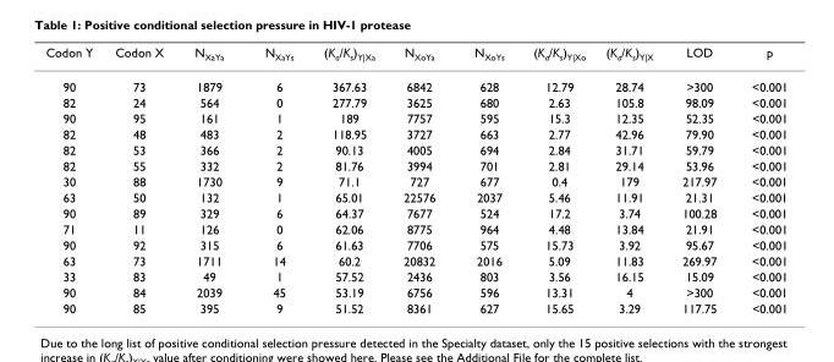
<table><thead><tr><td>Codon Y</td><td>Codon X</td><td>N<sub>XaYa</sub></td><td>N<sub>XaYs</sub></td><td>(K<sub>a</sub>/K<sub>s</sub>)<sub>Y|Xa</sub></td><td>N<sub>XoYa</sub></td><td>N<sub>XoYs</sub></td><td>(K<sub>a</sub>/K<sub>s</sub>)<sub>Y|Xo</sub></td><td>(K<sub>a</sub>/K<sub>s</sub>)<sub>Y|X</sub></td><td>LOD</td><td>p</td></tr></thead><tbody><tr><td>90</td><td>73</td><td>1879</td><td>6</td><td>367.63</td><td>6842</td><td>628</td><td>12.79</td><td>28.74</td><td>&gt;300</td><td>&lt;0.001</td></tr><tr><td>82</td><td>24</td><td>564</td><td>0</td><td>277.79</td><td>3625</td><td>680</td><td>2.63</td><td>105.8</td><td>98.09</td><td>&lt;0.001</td></tr><tr><td>90</td><td>95</td><td>161</td><td>1</td><td>189</td><td>7757</td><td>595</td><td>15.3</td><td>12.35</td><td>52.35</td><td>&lt;0.001</td></tr><tr><td>82</td><td>48</td><td>483</td><td>2</td><td>118.95</td><td>3727</td><td>663</td><td>2.77</td><td>42.96</td><td>79.90</td><td>&lt;0.001</td></tr><tr><td>82</td><td>53</td><td>366</td><td>2</td><td>90.13</td><td>4005</td><td>694</td><td>2.84</td><td>31.71</td><td>59.79</td><td>&lt;0.001</td></tr><tr><td>82</td><td>55</td><td>332</td><td>2</td><td>81.76</td><td>3994</td><td>701</td><td>2.81</td><td>29.14</td><td>53.96</td><td>&lt;0.001</td></tr><tr><td>30</td><td>88</td><td>1730</td><td>9</td><td>71.1</td><td>727</td><td>677</td><td>0.4</td><td>179</td><td>217.97</td><td>&lt;0.001</td></tr><tr><td>63</td><td>50</td><td>132</td><td>1</td><td>65.01</td><td>22576</td><td>2037</td><td>5.46</td><td>11.91</td><td>21.31</td><td>&lt;0.001</td></tr><tr><td>90</td><td>89</td><td>329</td><td>6</td><td>64.37</td><td>7677</td><td>524</td><td>17.2</td><td>3.74</td><td>100.28</td><td>&lt;0.001</td></tr><tr><td>71</td><td>11</td><td>126</td><td>0</td><td>62.06</td><td>8775</td><td>964</td><td>4.48</td><td>13.84</td><td>21.91</td><td>&lt;0.001</td></tr><tr><td>90</td><td>92</td><td>315</td><td>6</td><td>61.63</td><td>7706</td><td>575</td><td>15.73</td><td>3.92</td><td>95.67</td><td>&lt;0.001</td></tr><tr><td>63</td><td>73</td><td>1711</td><td>14</td><td>60.2</td><td>20832</td><td>2016</td><td>5.09</td><td>11.83</td><td>269.97</td><td>&lt;0.001</td></tr><tr><td>33</td><td>83</td><td>49</td><td>1</td><td>57.52</td><td>2436</td><td>803</td><td>3.56</td><td>16.15</td><td>15.09</td><td>&lt;0.001</td></tr><tr><td>90</td><td>84</td><td>2039</td><td>45</td><td>53.19</td><td>6756</td><td>596</td><td>13.31</td><td>4</td><td>&gt;300</td><td>&lt;0.001</td></tr><tr><td>90</td><td>85</td><td>395</td><td>9</td><td>51.52</td><td>8361</td><td>627</td><td>15.65</td><td>3.29</td><td>117.75</td><td>&lt;0.001</td></tr></tbody></table>